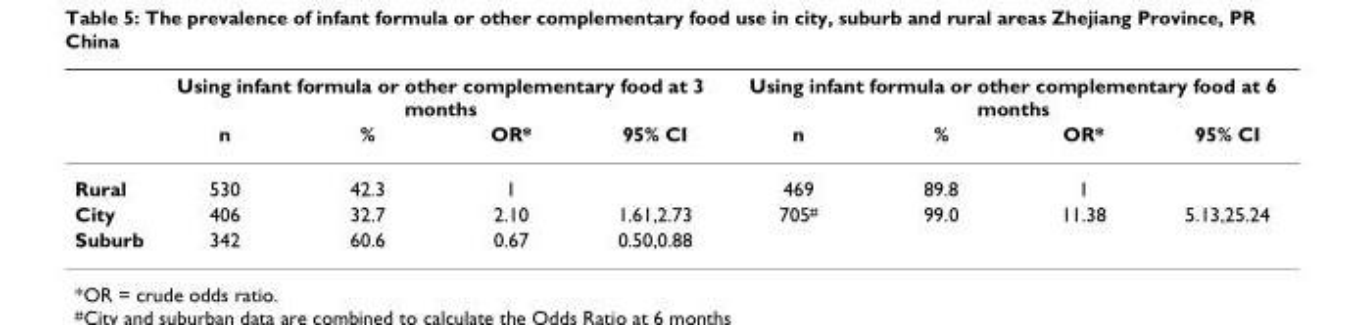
<table><thead><tr><td rowspan="2"></td><td colspan="4">Using infant formula or other complementary food at 3 months</td><td colspan="4">Using infant formula or other complementary food at 6 months</td></tr><tr><td>n</td><td>%</td><td>OR*</td><td>95% CI</td><td>n</td><td>%</td><td>OR*</td><td>95% CI</td></tr></thead><tbody><tr><td>Rural</td><td>530</td><td>42.3</td><td>1</td><td></td><td>469</td><td>89.8</td><td>1</td><td></td></tr><tr><td>City</td><td>406</td><td>32.7</td><td>2.10</td><td>1.61,2.73</td><td>705<sup>#</sup></td><td>99.0</td><td>11.38</td><td>5.13,25.24</td></tr><tr><td>Suburb</td><td>342</td><td>60.6</td><td>0.67</td><td>0.50,0.88</td><td></td><td></td><td></td><td></td></tr></tbody></table>